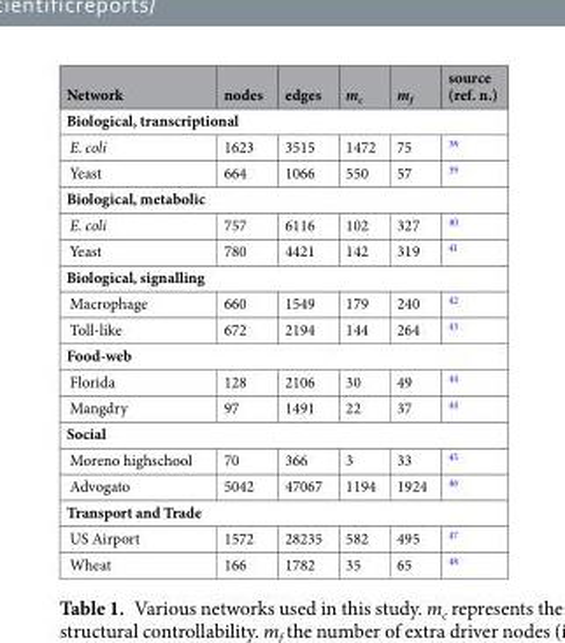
<table><thead><tr><td>Network</td><td>nodes</td><td>edges</td><td>m<sub>c</sub></td><td>m<sub>f</sub></td><td>source (ref. n.)</td></tr></thead><tbody><tr><td colspan="6">Biological, transcriptional</td></tr><tr><td>E. coli</td><td>1623</td><td>3515</td><td>1472</td><td>75</td><td><sup>38</sup></td></tr><tr><td>Yeast</td><td>664</td><td>1066</td><td>550</td><td>57</td><td><sup>39</sup></td></tr><tr><td colspan="6">Biological, metabolic</td></tr><tr><td>E. coli</td><td>757</td><td>6116</td><td>102</td><td>327</td><td><sup>40</sup></td></tr><tr><td>Yeast</td><td>780</td><td>4421</td><td>142</td><td>319</td><td><sup>41</sup></td></tr><tr><td colspan="6">Biological, signalling</td></tr><tr><td>Macrophage</td><td>660</td><td>1549</td><td>179</td><td>240</td><td><sup>42</sup></td></tr><tr><td>Toll-like</td><td>672</td><td>2194</td><td>144</td><td>264</td><td><sup>43</sup></td></tr><tr><td colspan="6">Food-web</td></tr><tr><td>Florida</td><td>128</td><td>2106</td><td>30</td><td>49</td><td><sup>44</sup></td></tr><tr><td>Mangdry</td><td>97</td><td>1491</td><td>22</td><td>37</td><td><sup>44</sup></td></tr><tr><td colspan="6">Social</td></tr><tr><td>Moreno highschool</td><td>70</td><td>366</td><td>3</td><td>33</td><td><sup>45</sup></td></tr><tr><td>Advogato</td><td>5042</td><td>47067</td><td>1194</td><td>1924</td><td><sup>46</sup></td></tr><tr><td colspan="6">Transport and Trade</td></tr><tr><td>US Airport</td><td>1572</td><td>28235</td><td>582</td><td>495</td><td><sup>47</sup></td></tr><tr><td>Wheat</td><td>166</td><td>1782</td><td>35</td><td>65</td><td><sup>48</sup></td></tr></tbody></table>